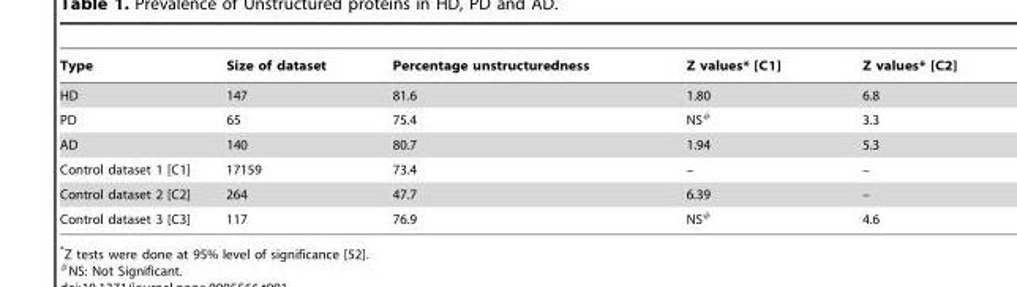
<table><thead><tr><td>Type</td><td>Size of dataset</td><td>Percentage unstructuredness</td><td>Z values* [C1]</td><td>Z values* [C2]</td></tr></thead><tbody><tr><td>HD</td><td>147</td><td>81.6</td><td>1.80</td><td>6.8</td></tr><tr><td>PD</td><td>65</td><td>75.4</td><td>NS#</td><td>3.3</td></tr><tr><td>AD</td><td>140</td><td>80.7</td><td>1.94</td><td>5.3</td></tr><tr><td>Control dataset 1 [C1]</td><td>17159</td><td>73.4</td><td>–</td><td>–</td></tr><tr><td>Control dataset 2 [C2]</td><td>264</td><td>47.7</td><td>6.39</td><td>–</td></tr><tr><td>Control dataset 3 [C3]</td><td>117</td><td>76.9</td><td>NS#</td><td>4.6</td></tr></tbody></table>